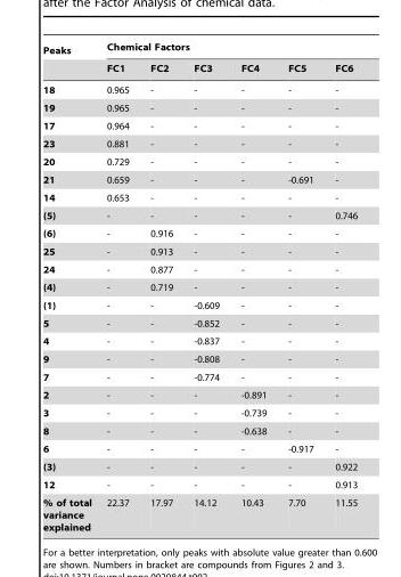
<table><thead><tr><td rowspan="2">Peaks</td><td colspan="6">Chemical Factors</td></tr><tr><td>FC1</td><td>FC2</td><td>FC3</td><td>FC4</td><td>FC5</td><td>FC6</td></tr></thead><tbody><tr><td>18</td><td>0.965</td><td>-</td><td>-</td><td>-</td><td>-</td><td>-</td></tr><tr><td>19</td><td>0.965</td><td>-</td><td>-</td><td>-</td><td>-</td><td>-</td></tr><tr><td>17</td><td>0.964</td><td>-</td><td>-</td><td>-</td><td>-</td><td>-</td></tr><tr><td>23</td><td>0.881</td><td>-</td><td>-</td><td>-</td><td>-</td><td>-</td></tr><tr><td>20</td><td>0.729</td><td>-</td><td>-</td><td>-</td><td>-</td><td>-</td></tr><tr><td>21</td><td>0.659</td><td>-</td><td>-</td><td>-</td><td>-0.691</td><td>-</td></tr><tr><td>14</td><td>0.653</td><td>-</td><td>-</td><td>-</td><td>-</td><td>-</td></tr><tr><td>(5)</td><td>-</td><td>-</td><td>-</td><td>-</td><td>-</td><td>0.746</td></tr><tr><td>(6)</td><td>-</td><td>0.916</td><td>-</td><td>-</td><td>-</td><td>-</td></tr><tr><td>25</td><td>-</td><td>0.913</td><td>-</td><td>-</td><td>-</td><td>-</td></tr><tr><td>24</td><td>-</td><td>0.877</td><td>-</td><td>-</td><td>-</td><td>-</td></tr><tr><td>(4)</td><td>-</td><td>0.719</td><td>-</td><td>-</td><td>-</td><td>-</td></tr><tr><td>(1)</td><td>-</td><td>-</td><td>-0.609</td><td>-</td><td>-</td><td>-</td></tr><tr><td>5</td><td>-</td><td>-</td><td>-0.852</td><td>-</td><td>-</td><td>-</td></tr><tr><td>4</td><td>-</td><td>-</td><td>-0.837</td><td>-</td><td>-</td><td>-</td></tr><tr><td>9</td><td>-</td><td>-</td><td>-0.808</td><td>-</td><td>-</td><td>-</td></tr><tr><td>7</td><td>-</td><td>-</td><td>-0.774</td><td>-</td><td>-</td><td>-</td></tr><tr><td>2</td><td>-</td><td>-</td><td>-</td><td>-0.891</td><td>-</td><td>-</td></tr><tr><td>3</td><td>-</td><td>-</td><td>-</td><td>-0.739</td><td>-</td><td>-</td></tr><tr><td>8</td><td>-</td><td>-</td><td>-</td><td>-0.638</td><td>-</td><td>-</td></tr><tr><td>6</td><td>-</td><td>-</td><td>-</td><td>-</td><td>-0.917</td><td>-</td></tr><tr><td>(3)</td><td>-</td><td>-</td><td>-</td><td>-</td><td>-</td><td>0.922</td></tr><tr><td>12</td><td>-</td><td>-</td><td>-</td><td>-</td><td>-</td><td>0.913</td></tr><tr><td>% of total variance explained</td><td>22.37</td><td>17.97</td><td>14.12</td><td>10.43</td><td>7.70</td><td>11.55</td></tr></tbody></table>